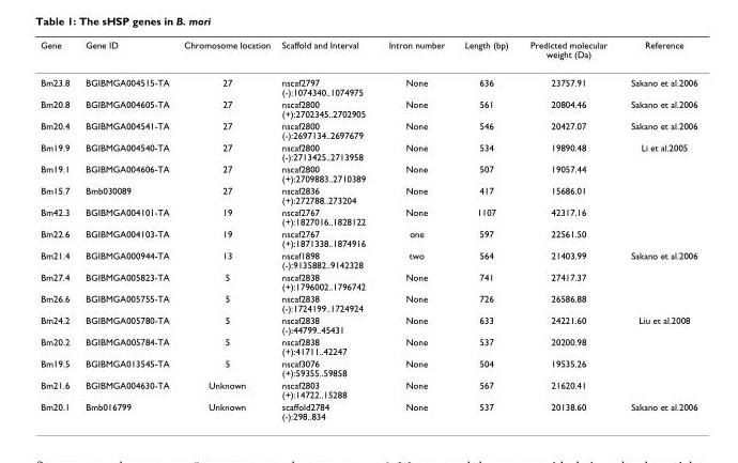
<table><thead><tr><td>Gene</td><td>Gene ID</td><td>Chromosome location</td><td>Scaffold and Interval</td><td>Intron number</td><td>Length (bp)</td><td>Predicted molecular weight (Da)</td><td>Reference</td></tr></thead><tbody><tr><td>Bm23.8</td><td>BGIBMGA004515-TA</td><td>27</td><td>nscaf2797 (-):1074340..1074975</td><td>None</td><td>636</td><td>23757.91</td><td>Sakano et al.2006</td></tr><tr><td>Bm20.8</td><td>BGIBMGA004605-TA</td><td>27</td><td>nscaf2800 (+):2702345..2702905</td><td>None</td><td>561</td><td>20804.46</td><td>Sakano et al.2006</td></tr><tr><td>Bm20.4</td><td>BGIBMGA004541-TA</td><td>27</td><td>nscaf2800 (-):2697134..2697679</td><td>None</td><td>546</td><td>20427.07</td><td>Sakano et al.2006</td></tr><tr><td>Bm19.9</td><td>BGIBMGA004540-TA</td><td>27</td><td>nscaf2800 (-):2713425..2713958</td><td>None</td><td>534</td><td>19890.48</td><td>Li et al.2005</td></tr><tr><td>Bm19.1</td><td>BGIBMGA004606-TA</td><td>27</td><td>nscaf2800 (+):2709883..2710389</td><td>None</td><td>507</td><td>19057.44</td><td></td></tr><tr><td>Bm15.7</td><td>Bmb030089</td><td>27</td><td>nscaf2836 (+):272788..273204</td><td>None</td><td>417</td><td>15686.01</td><td></td></tr><tr><td>Bm42.3</td><td>BGIBMGA004101-TA</td><td>19</td><td>nscaf2767 (+):1827016..1828122</td><td>None</td><td>1107</td><td>42317.16</td><td></td></tr><tr><td>Bm22.6</td><td>BGIBMGA004103-TA</td><td>19</td><td>nscaf2767 (+):1871338..1874916</td><td>one</td><td>597</td><td>22561.50</td><td></td></tr><tr><td>Bm21.4</td><td>BGIBMGA000944-TA</td><td>13</td><td>nscaf1898 (-):9135882..9142328</td><td>two</td><td>564</td><td>21403.99</td><td>Sakano et al.2006</td></tr><tr><td>Bm27.4</td><td>BGIBMGA005823-TA</td><td>5</td><td>nscaf2838 (+):1796002..1796742</td><td>None</td><td>741</td><td>27417.37</td><td></td></tr><tr><td>Bm26.6</td><td>BGIBMGA005755-TA</td><td>5</td><td>nscaf2838 (-):1724199..1724924</td><td>None</td><td>726</td><td>26586.88</td><td></td></tr><tr><td>Bm24.2</td><td>BGIBMGA005780-TA</td><td>5</td><td>nscaf2838 (-):44799..45431</td><td>None</td><td>633</td><td>24221.60</td><td>Liu et al.2008</td></tr><tr><td>Bm20.2</td><td>BGIBMGA005784-TA</td><td>5</td><td>nscaf2838 (+):41711..42247</td><td>None</td><td>537</td><td>20200.98</td><td></td></tr><tr><td>Bm19.5</td><td>BGIBMGA013545-TA</td><td>5</td><td>nscaf3076 (+):59355..59858</td><td>None</td><td>504</td><td>19535.26</td><td></td></tr><tr><td>Bm21.6</td><td>BGIBMGA004630-TA</td><td>Unknown</td><td>nscaf2803 (+):14722..15288</td><td>None</td><td>567</td><td>21620.41</td><td></td></tr><tr><td>Bm20.1</td><td>Bmb016799</td><td>Unknown</td><td>scaffold2784 (-):298..834</td><td>None</td><td>537</td><td>20138.60</td><td>Sakano et al.2006</td></tr></tbody></table>